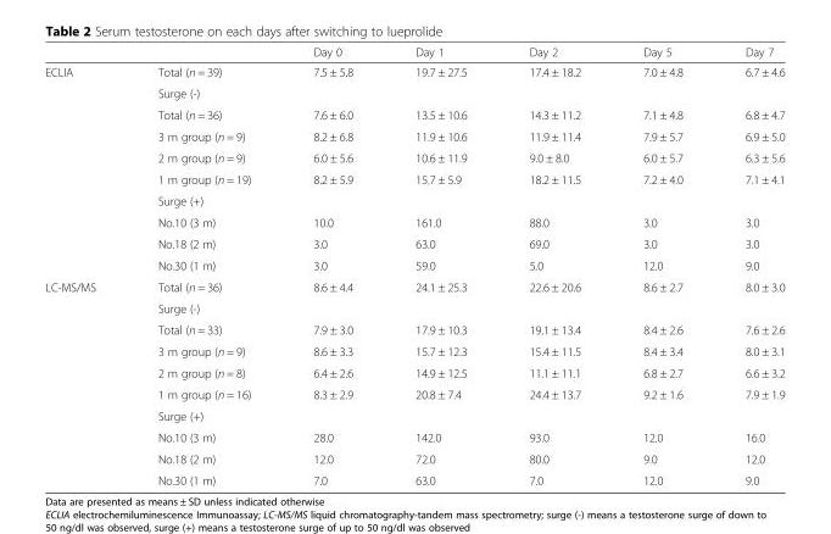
<table><thead><tr><td></td><td></td><td>Day 0</td><td>Day 1</td><td>Day 2</td><td>Day 5</td><td>Day 7</td></tr></thead><tbody><tr><td rowspan="10">ECLIA</td><td>Total (n = 39)</td><td>7.5 ± 5.8</td><td>19.7 ± 27.5</td><td>17.4 ± 18.2</td><td>7.0 ± 4.8</td><td>6.7 ± 4.6</td></tr><tr><td>Surge (-)</td><td></td><td></td><td></td><td></td><td></td></tr><tr><td>Total (n = 36)</td><td>7.6 ± 6.0</td><td>13.5 ± 10.6</td><td>14.3 ± 11.2</td><td>7.1 ± 4.8</td><td>6.8 ± 4.7</td></tr><tr><td>3 m group (n = 9)</td><td>8.2 ± 6.8</td><td>11.9 ± 10.6</td><td>11.9 ± 11.4</td><td>7.9 ± 5.7</td><td>6.9 ± 5.0</td></tr><tr><td>2 m group (n = 9)</td><td>6.0 ± 5.6</td><td>10.6 ± 11.9</td><td>9.0 ± 8.0</td><td>6.0 ± 5.7</td><td>6.3 ± 5.6</td></tr><tr><td>1 m group (n = 19)</td><td>8.2 ± 5.9</td><td>15.7 ± 5.9</td><td>18.2 ± 11.5</td><td>7.2 ± 4.0</td><td>7.1 ± 4.1</td></tr><tr><td>Surge (+)</td><td></td><td></td><td></td><td></td><td></td></tr><tr><td>No.10 (3 m)</td><td>10.0</td><td>161.0</td><td>88.0</td><td>3.0</td><td>3.0</td></tr><tr><td>No.18 (2 m)</td><td>3.0</td><td>63.0</td><td>69.0</td><td>3.0</td><td>3.0</td></tr><tr><td>No.30 (1 m)</td><td>3.0</td><td>59.0</td><td>5.0</td><td>12.0</td><td>9.0</td></tr><tr><td rowspan="10">LC-MS/MS</td><td>Total (n = 36)</td><td>8.6 ± 4.4</td><td>24.1 ± 25.3</td><td>22.6 ± 20.6</td><td>8.6 ± 2.7</td><td>8.0 ± 3.0</td></tr><tr><td>Surge (-)</td><td></td><td></td><td></td><td></td><td></td></tr><tr><td>Total (n = 33)</td><td>7.9 ± 3.0</td><td>17.9 ± 10.3</td><td>19.1 ± 13.4</td><td>8.4 ± 2.6</td><td>7.6 ± 2.6</td></tr><tr><td>3 m group (n = 9)</td><td>8.6 ± 3.3</td><td>15.7 ± 12.3</td><td>15.4 ± 11.5</td><td>8.4 ± 3.4</td><td>8.0 ± 3.1</td></tr><tr><td>2 m group (n = 8)</td><td>6.4 ± 2.6</td><td>14.9 ± 12.5</td><td>11.1 ± 11.1</td><td>6.8 ± 2.7</td><td>6.6 ± 3.2</td></tr><tr><td>1 m group (n = 16)</td><td>8.3 ± 2.9</td><td>20.8 ± 7.4</td><td>24.4 ± 13.7</td><td>9.2 ± 1.6</td><td>7.9 ± 1.9</td></tr><tr><td>Surge (+)</td><td></td><td></td><td></td><td></td><td></td></tr><tr><td>No.10 (3 m)</td><td>28.0</td><td>142.0</td><td>93.0</td><td>12.0</td><td>16.0</td></tr><tr><td>No.18 (2 m)</td><td>12.0</td><td>72.0</td><td>80.0</td><td>9.0</td><td>12.0</td></tr><tr><td>No.30 (1 m)</td><td>7.0</td><td>63.0</td><td>7.0</td><td>12.0</td><td>9.0</td></tr></tbody></table>